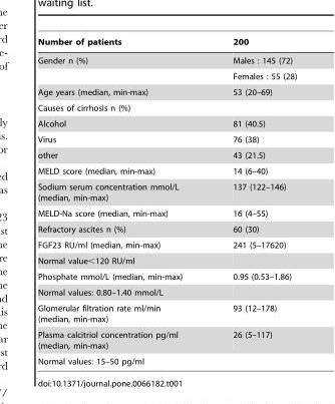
<table><thead><tr><td>Number of patients</td><td>200</td></tr></thead><tbody><tr><td rowspan="2">Gender n (%)</td><td>Males : 145 (72)</td></tr><tr><td>Females : 55 (28)</td></tr><tr><td>Age years (median, min-max)</td><td>53 (20–69)</td></tr><tr><td colspan="2">Causes of cirrhosis n (%)</td></tr><tr><td>Alcohol</td><td>81 (40.5)</td></tr><tr><td>Virus</td><td>76 (38)</td></tr><tr><td>other</td><td>43 (21.5)</td></tr><tr><td>MELD score (median, min-max)</td><td>14 (6–40)</td></tr><tr><td>Sodium serum concentration mmol/L (median, min-max)</td><td>137 (122–146)</td></tr><tr><td>MELD-Na score (median, min-max)</td><td>16 (4–55)</td></tr><tr><td>Refractory ascites n (%)</td><td>60 (30)</td></tr><tr><td>FGF23 RU/ml (median, min-max)</td><td>241 (5–17620)</td></tr><tr><td colspan="2">Normal value&lt;120 RU/ml</td></tr><tr><td>Phosphate mmol/L (median, min-max)</td><td>0.95 (0.53–1.86)</td></tr><tr><td colspan="2">Normal values: 0.80–1.40 mmol/L</td></tr><tr><td>Glomerular filtration rate ml/min (median, min-max)</td><td>93 (12–178)</td></tr><tr><td>Plasma calcitriol concentration pg/ml (median, min-max)</td><td>26 (5–117)</td></tr><tr><td>Normal values: 15–50 pg/ml</td><td></td></tr></tbody></table>